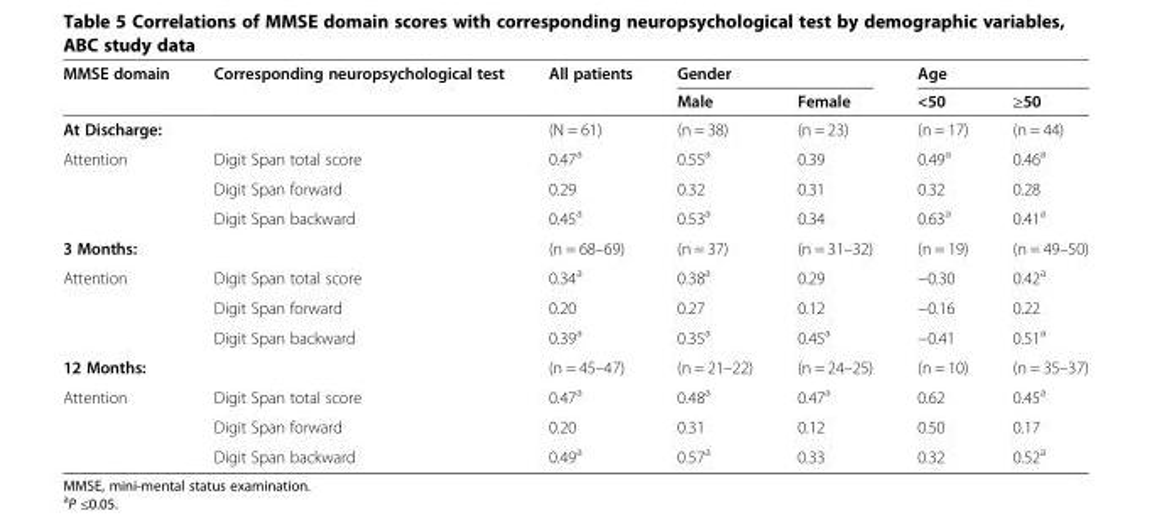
<table><thead><tr><td rowspan="2">MMSE domain</td><td rowspan="2">Corresponding neuropsychological test</td><td rowspan="2">All patients</td><td colspan="2">Gender</td><td colspan="2">Age</td></tr><tr><td>Male</td><td>Female</td><td>&lt;50</td><td>≥50</td></tr></thead><tbody><tr><td colspan="2">At Discharge:</td><td>(N = 61)</td><td>(n = 38)</td><td>(n = 23)</td><td>(n = 17)</td><td>(n = 44)</td></tr><tr><td rowspan="3">Attention</td><td>Digit Span total score</td><td>0.47<sup>a</sup></td><td>0.55<sup>a</sup></td><td>0.39</td><td>0.49<sup>a</sup></td><td>0.46<sup>a</sup></td></tr><tr><td>Digit Span forward</td><td>0.29</td><td>0.32</td><td>0.31</td><td>0.32</td><td>0.28</td></tr><tr><td>Digit Span backward</td><td>0.45<sup>a</sup></td><td>0.53<sup>a</sup></td><td>0.34</td><td>0.63<sup>a</sup></td><td>0.41<sup>a</sup></td></tr><tr><td colspan="2">3 Months:</td><td>(n = 68–69)</td><td>(n = 37)</td><td>(n = 31–32)</td><td>(n = 19)</td><td>(n = 49–50)</td></tr><tr><td rowspan="3">Attention</td><td>Digit Span total score</td><td>0.34<sup>a</sup></td><td>0.38<sup>a</sup></td><td>0.29</td><td>−0.30</td><td>0.42<sup>a</sup></td></tr><tr><td>Digit Span forward</td><td>0.20</td><td>0.27</td><td>0.12</td><td>−0.16</td><td>0.22</td></tr><tr><td>Digit Span backward</td><td>0.39<sup>a</sup></td><td>0.35<sup>a</sup></td><td>0.45<sup>a</sup></td><td>−0.41</td><td>0.51<sup>a</sup></td></tr><tr><td colspan="2">12 Months:</td><td>(n = 45–47)</td><td>(n = 21–22)</td><td>(n = 24–25)</td><td>(n = 10)</td><td>(n = 35–37)</td></tr><tr><td rowspan="3">Attention</td><td>Digit Span total score</td><td>0.47<sup>a</sup></td><td>0.48<sup>a</sup></td><td>0.47<sup>a</sup></td><td>0.62</td><td>0.45<sup>a</sup></td></tr><tr><td>Digit Span forward</td><td>0.20</td><td>0.31</td><td>0.12</td><td>0.50</td><td>0.17</td></tr><tr><td>Digit Span backward</td><td>0.49<sup>a</sup></td><td>0.57<sup>a</sup></td><td>0.33</td><td>0.32</td><td>0.52<sup>a</sup></td></tr></tbody></table>